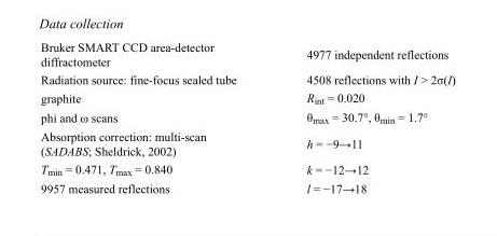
<table><tbody><tr><td>Bruker SMART CCD area-detector diffractometer</td><td>4977 independent reflections</td></tr><tr><td>Radiation source: fine-focus sealed tube</td><td>4508 reflections with I &gt; 2σ(I)</td></tr><tr><td>graphite</td><td>R<sub>int</sub> = 0.020</td></tr><tr><td>phi and ω scans</td><td>θ<sub>max</sub> = 30.7°, θ<sub>min</sub> = 1.7°</td></tr><tr><td>Absorption correction: multi-scan (SADABS; Sheldrick, 2002)</td><td>h = −9→11</td></tr><tr><td>T<sub>min</sub> = 0.471, T<sub>max</sub> = 0.840</td><td>k = −12→12</td></tr><tr><td>9957 measured reflections</td><td>l = −17→18</td></tr></tbody></table>